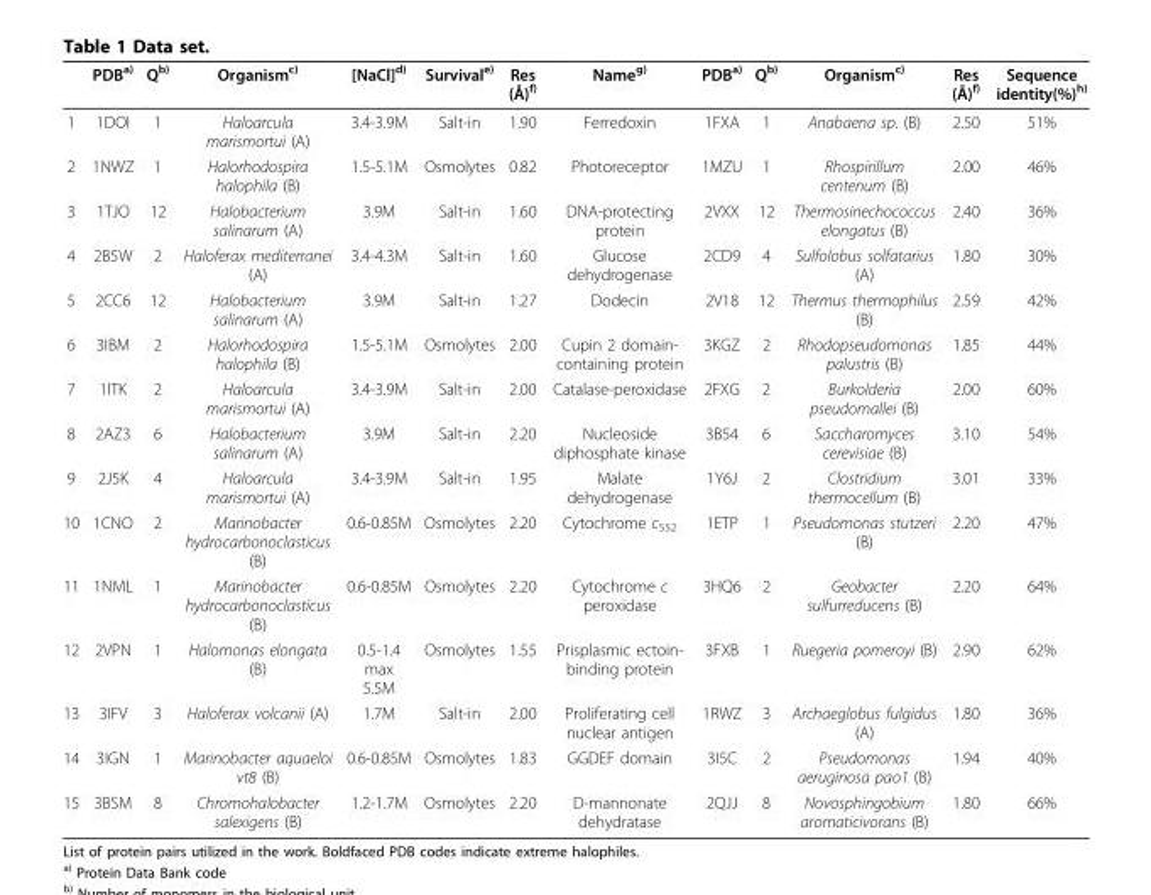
<table><thead><tr><td></td><td>PDB<sup>a)</sup></td><td>Q<sup>b)</sup></td><td>Organism<sup>c)</sup></td><td>[NaCl]<sup>d)</sup></td><td>Survival<sup>e)</sup></td><td>Res (Å)<sup>f)</sup></td><td>Name<sup>g)</sup></td><td>PDB<sup>a)</sup></td><td>Q<sup>b)</sup></td><td>Organism<sup>c)</sup></td><td>Res (Å)<sup>f)</sup></td><td>Sequence identity(%)<sup>h)</sup></td></tr></thead><tbody><tr><td>1</td><td>1DOI</td><td>1</td><td>Haloarcula marismortui (A)</td><td>3.4-3.9M</td><td>Salt-in</td><td>1.90</td><td>Ferredoxin</td><td>1FXA</td><td>1</td><td>Anabaena sp. (B)</td><td>2.50</td><td>51%</td></tr><tr><td>2</td><td>1NWZ</td><td>1</td><td>Halorhodospira halophila (B)</td><td>1.5-5.1M</td><td>Osmolytes</td><td>0.82</td><td>Photoreceptor</td><td>1MZU</td><td>1</td><td>Rhospirillum centenum (B)</td><td>2.00</td><td>46%</td></tr><tr><td>3</td><td>1TJO</td><td>12</td><td>Halobacterium salinarum (A)</td><td>3.9M</td><td>Salt-in</td><td>1.60</td><td>DNA-protecting protein</td><td>2VXX</td><td>12</td><td>Thermosinechococcus elongatus (B)</td><td>2.40</td><td>36%</td></tr><tr><td>4</td><td>2B5W</td><td>2</td><td>Haloferax mediterranei (A)</td><td>3.4-4.3M</td><td>Salt-in</td><td>1.60</td><td>Glucose dehydrogenase</td><td>2CD9</td><td>4</td><td>Sulfolobus solfatarius (A)</td><td>1.80</td><td>30%</td></tr><tr><td>5</td><td>2CC6</td><td>12</td><td>Halobacterium salinarum (A)</td><td>3.9M</td><td>Salt-in</td><td>1.27</td><td>Dodecin</td><td>2V18</td><td>12</td><td>Thermus thermophilus (B)</td><td>2.59</td><td>42%</td></tr><tr><td>6</td><td>3IBM</td><td>2</td><td>Halorhodospira halophila (B)</td><td>1.5-5.1M</td><td>Osmolytes</td><td>2.00</td><td>Cupin 2 domain- containing protein</td><td>3KGZ</td><td>2</td><td>Rhodopseudomonas palustris (B)</td><td>1.85</td><td>44%</td></tr><tr><td>7</td><td>1ITK</td><td>2</td><td>Haloarcula marismortui (A)</td><td>3.4-3.9M</td><td>Salt-in</td><td>2.00</td><td>Catalase-peroxidase</td><td>2FXG</td><td>2</td><td>Burkolderia pseudomallei (B)</td><td>2.00</td><td>60%</td></tr><tr><td>8</td><td>2AZ3</td><td>6</td><td>Halobacterium salinarum (A)</td><td>3.9M</td><td>Salt-in</td><td>2.20</td><td>Nucleoside diphosphate kinase</td><td>3B54</td><td>6</td><td>Saccharomyces cerevisiae (B)</td><td>3.10</td><td>54%</td></tr><tr><td>9</td><td>2J5K</td><td>4</td><td>Haloarcula marismortui (A)</td><td>3.4-3.9M</td><td>Salt-in</td><td>1.95</td><td>Malate dehydrogenase</td><td>1Y6J</td><td>2</td><td>Clostridium thermocellum (B)</td><td>3.01</td><td>33%</td></tr><tr><td>10</td><td>1CNO</td><td>2</td><td>Marinobacter hydrocarbonoclasticus (B)</td><td>0.6-0.85M</td><td>Osmolytes</td><td>2.20</td><td>Cytochrome c<sub>552</sub></td><td>1ETP</td><td>1</td><td>Pseudomonas stutzeri (B)</td><td>2.20</td><td>47%</td></tr><tr><td>11</td><td>1NML</td><td>1</td><td>Marinobacter hydrocarbonoclasticus (B)</td><td>0.6-0.85M</td><td>Osmolytes</td><td>2.20</td><td>Cytochrome c peroxidase</td><td>3HQ6</td><td>2</td><td>Geobacter sulfurreducens (B)</td><td>2.20</td><td>64%</td></tr><tr><td>12</td><td>2VPN</td><td>1</td><td>Halomonas elongata (B)</td><td>0.5-1.4 max 5.5M</td><td>Osmolytes</td><td>1.55</td><td>Prisplasmic ectoin- binding protein</td><td>3FXB</td><td>1</td><td>Ruegeria pomeroyi (B)</td><td>2.90</td><td>62%</td></tr><tr><td>13</td><td>3IFV</td><td>3</td><td>Haloferax volcanii (A)</td><td>1.7M</td><td>Salt-in</td><td>2.00</td><td>Proliferating cell nuclear antigen</td><td>1RWZ</td><td>3</td><td>Archaeglobus fulgidus (A)</td><td>1.80</td><td>36%</td></tr><tr><td>14</td><td>3IGN</td><td>1</td><td>Marinobacter aquaeloi vt8 (B)</td><td>0.6-0.85M</td><td>Osmolytes</td><td>1.83</td><td>GGDEF domain</td><td>3I5C</td><td>2</td><td>Pseudomonas aeruginosa pao1 (B)</td><td>1.94</td><td>40%</td></tr><tr><td>15</td><td>3BSM</td><td>8</td><td>Chromohalobacter salexigens (B)</td><td>1.2-1.7M</td><td>Osmolytes</td><td>2.20</td><td>D-mannonate dehydratase</td><td>2QJJ</td><td>8</td><td>Novosphingobium aromaticivorans (B)</td><td>1.80</td><td>66%</td></tr></tbody></table>